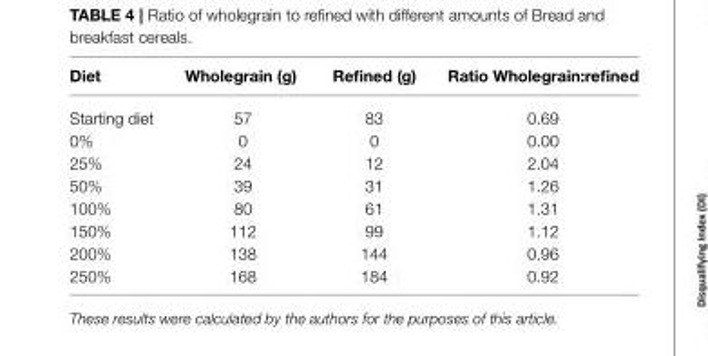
<table><thead><tr><td>Diet</td><td>Wholegrain (g)</td><td>Refined (g)</td><td>Ratio Wholegrain:refined</td></tr></thead><tbody><tr><td>Starting diet</td><td>57</td><td>83</td><td>0.69</td></tr><tr><td>0%</td><td>0</td><td>0</td><td>0.00</td></tr><tr><td>25%</td><td>24</td><td>12</td><td>2.04</td></tr><tr><td>50%</td><td>39</td><td>31</td><td>1.26</td></tr><tr><td>100%</td><td>80</td><td>61</td><td>1.31</td></tr><tr><td>150%</td><td>112</td><td>99</td><td>1.12</td></tr><tr><td>200%</td><td>138</td><td>144</td><td>0.96</td></tr><tr><td>250%</td><td>168</td><td>184</td><td>0.92</td></tr></tbody></table>